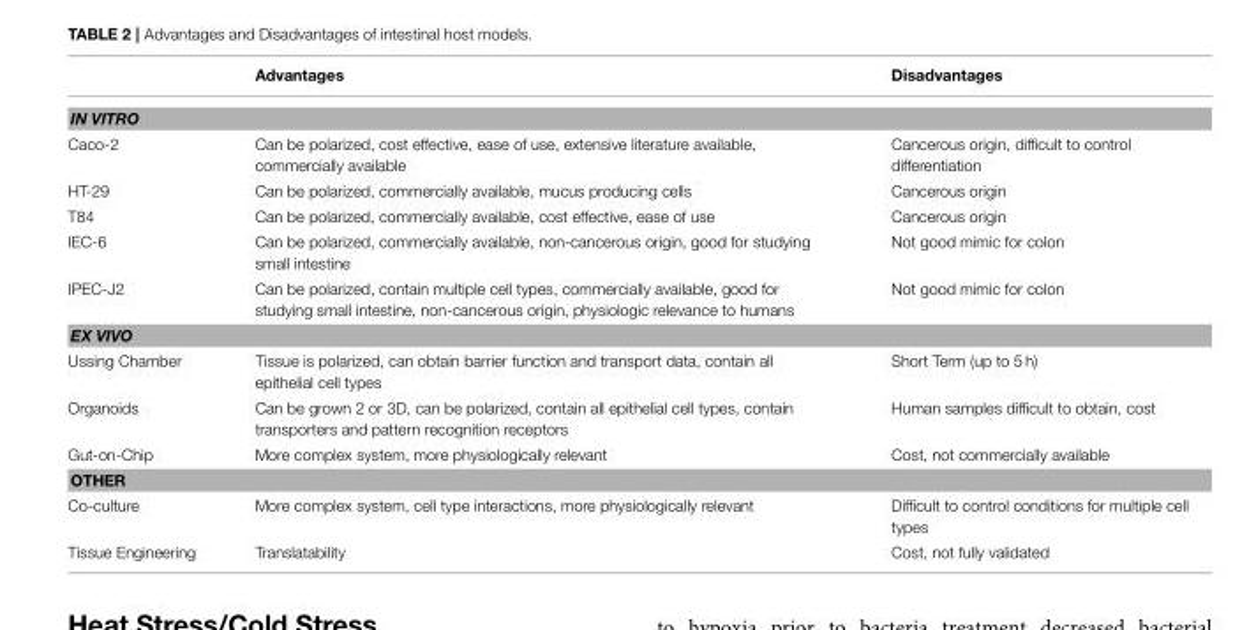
<table><thead><tr><td></td><td>Advantages</td><td>Disadvantages</td></tr></thead><tbody><tr><td colspan="3">IN VITRO</td></tr><tr><td>Caco-2</td><td>Can be polarized, cost effective, ease of use, extensive literature available, commercially available</td><td>Cancerous origin, difficult to control differentiation</td></tr><tr><td>HT-29</td><td>Can be polarized, commercially available, mucus producing cells</td><td>Cancerous origin</td></tr><tr><td>T84</td><td>Can be polarized, commercially available, cost effective, ease of use</td><td>Cancerous origin</td></tr><tr><td>IEC-6</td><td>Can be polarized, commercially available, non-cancerous origin, good for studying small intestine</td><td>Not good mimic for colon</td></tr><tr><td>IPEC-J2</td><td>Can be polarized, contain multiple cell types, commercially available, good for studying small intestine, non-cancerous origin, physiologic relevance to humans</td><td>Not good mimic for colon</td></tr><tr><td colspan="3">EX VIVO</td></tr><tr><td>Ussing Chamber</td><td>Tissue is polarized, can obtain barrier function and transport data, contain all epithelial cell types</td><td>Short Term (up to 5 h)</td></tr><tr><td>Organoids</td><td>Can be grown 2 or 3D, can be polarized, contain all epithelial cell types, contain transporters and pattern recognition receptors</td><td>Human samples difficult to obtain, cost</td></tr><tr><td>Gut-on-Chip</td><td>More complex system, more physiologically relevant</td><td>Cost, not commercially available</td></tr><tr><td colspan="3">OTHER</td></tr><tr><td>Co-culture</td><td>More complex system, cell type interactions, more physiologically relevant</td><td>Difficult to control conditions for multiple cell types</td></tr><tr><td>Tissue Engineering</td><td>Translatability</td><td>Cost, not fully validated</td></tr></tbody></table>